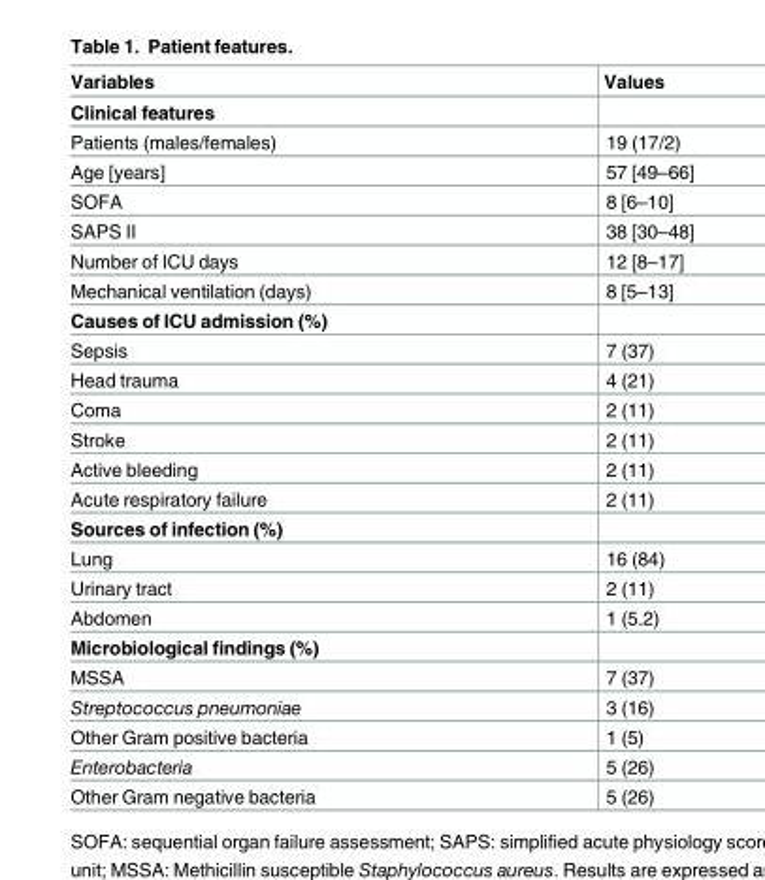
<table><thead><tr><td>Variables</td><td>Values</td></tr></thead><tbody><tr><td colspan="2">Clinical features</td></tr><tr><td>Patients (males/females)</td><td>19 (17/2)</td></tr><tr><td>Age [years]</td><td>57 [49–66]</td></tr><tr><td>SOFA</td><td>8 [6–10]</td></tr><tr><td>SAPS II</td><td>38 [30–48]</td></tr><tr><td>Number of ICU days</td><td>12 [8–17]</td></tr><tr><td>Mechanical ventilation (days)</td><td>8 [5–13]</td></tr><tr><td colspan="2">Causes of ICU admission (%)</td></tr><tr><td>Sepsis</td><td>7 (37)</td></tr><tr><td>Head trauma</td><td>4 (21)</td></tr><tr><td>Coma</td><td>2 (11)</td></tr><tr><td>Stroke</td><td>2 (11)</td></tr><tr><td>Active bleeding</td><td>2 (11)</td></tr><tr><td>Acute respiratory failure</td><td>2 (11)</td></tr><tr><td colspan="2">Sources of infection (%)</td></tr><tr><td>Lung</td><td>16 (84)</td></tr><tr><td>Urinary tract</td><td>2 (11)</td></tr><tr><td>Abdomen</td><td>1 (5.2)</td></tr><tr><td colspan="2">Microbiological findings (%)</td></tr><tr><td>MSSA</td><td>7 (37)</td></tr><tr><td>Streptococcus pneumoniae</td><td>3 (16)</td></tr><tr><td>Other Gram positive bacteria</td><td>1 (5)</td></tr><tr><td>Enterobacteria</td><td>5 (26)</td></tr><tr><td>Other Gram negative bacteria</td><td>5 (26)</td></tr></tbody></table>